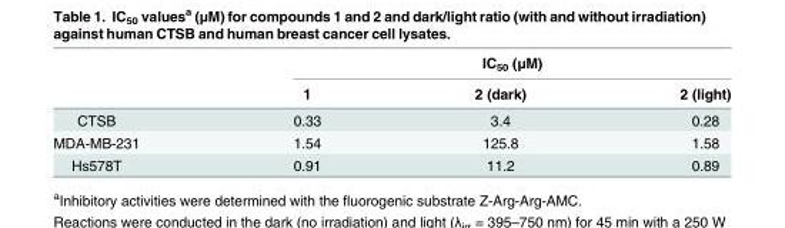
<table><thead><tr><td rowspan="2"></td><td colspan="3">IC<sub>50</sub> (μM)</td></tr><tr><td>1</td><td>2 (dark)</td><td>2 (light)</td></tr></thead><tbody><tr><td>CTSB</td><td>0.33</td><td>3.4</td><td>0.28</td></tr><tr><td>MDA-MB-231</td><td>1.54</td><td>125.8</td><td>1.58</td></tr><tr><td>Hs578T</td><td>0.91</td><td>11.2</td><td>0.89</td></tr></tbody></table>